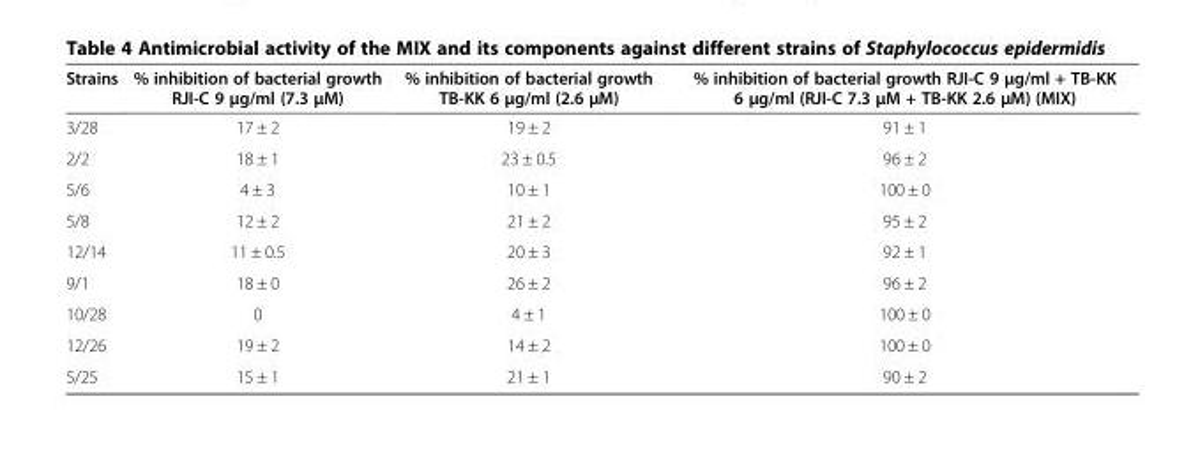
<table><thead><tr><td>Strains</td><td>% inhibition of bacterial growth RJI-C 9 μg/ml (7.3 μM)</td><td>% inhibition of bacterial growth TB-KK 6 μg/ml (2.6 μM)</td><td>% inhibition of bacterial growth RJI-C 9 μg/ml + TB-KK 6 μg/ml (RJI-C 7.3 μM + TB-KK 2.6 μM) (MIX)</td></tr></thead><tbody><tr><td>3/28</td><td>17 ± 2</td><td>19 ± 2</td><td>91 ± 1</td></tr><tr><td>2/2</td><td>18 ± 1</td><td>23 ± 0.5</td><td>96 ± 2</td></tr><tr><td>5/6</td><td>4 ± 3</td><td>10 ± 1</td><td>100 ± 0</td></tr><tr><td>5/8</td><td>12 ± 2</td><td>21 ± 2</td><td>95 ± 2</td></tr><tr><td>12/14</td><td>11 ± 0.5</td><td>20 ± 3</td><td>92 ± 1</td></tr><tr><td>9/1</td><td>18 ± 0</td><td>26 ± 2</td><td>96 ± 2</td></tr><tr><td>10/28</td><td>0</td><td>4 ± 1</td><td>100 ± 0</td></tr><tr><td>12/26</td><td>19 ± 2</td><td>14 ± 2</td><td>100 ± 0</td></tr><tr><td>5/25</td><td>15 ± 1</td><td>21 ± 1</td><td>90 ± 2</td></tr></tbody></table>